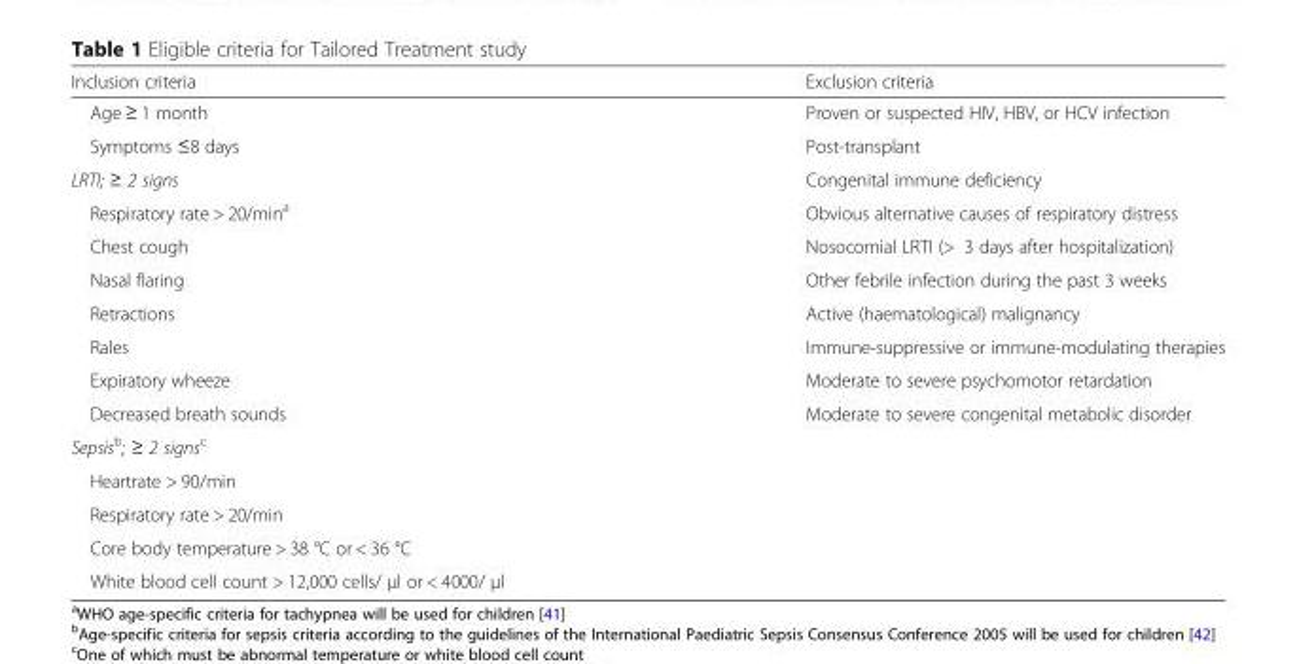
<table><thead><tr><td>Inclusion criteria</td><td>Exclusion criteria</td></tr></thead><tbody><tr><td>Age ≥ 1 month</td><td>Proven or suspected HIV, HBV, or HCV infection</td></tr><tr><td>Symptoms ≤8 days</td><td>Post-transplant</td></tr><tr><td>LRTI; ≥ 2 signs</td><td>Congenital immune deficiency</td></tr><tr><td>Respiratory rate &gt; 20/min<sup>a</sup></td><td>Obvious alternative causes of respiratory distress</td></tr><tr><td>Chest cough</td><td>Nosocomial LRTI (&gt; 3 days after hospitalization)</td></tr><tr><td>Nasal flaring</td><td>Other febrile infection during the past 3 weeks</td></tr><tr><td>Retractions</td><td>Active (haematological) malignancy</td></tr><tr><td>Rales</td><td>Immune-suppressive or immune-modulating therapies</td></tr><tr><td>Expiratory wheeze</td><td>Moderate to severe psychomotor retardation</td></tr><tr><td>Decreased breath sounds</td><td>Moderate to severe congenital metabolic disorder</td></tr><tr><td colspan="2">Sepsis<sup>b</sup>; ≥ 2 signs<sup>c</sup></td></tr><tr><td colspan="2">Heartrate &gt; 90/min</td></tr><tr><td colspan="2">Respiratory rate &gt; 20/min</td></tr><tr><td colspan="2">Core body temperature &gt; 38 °C or &lt; 36 °C</td></tr><tr><td>White blood cell count &gt; 12,000 cells/ μl or &lt; 4000/ μl</td><td></td></tr></tbody></table>